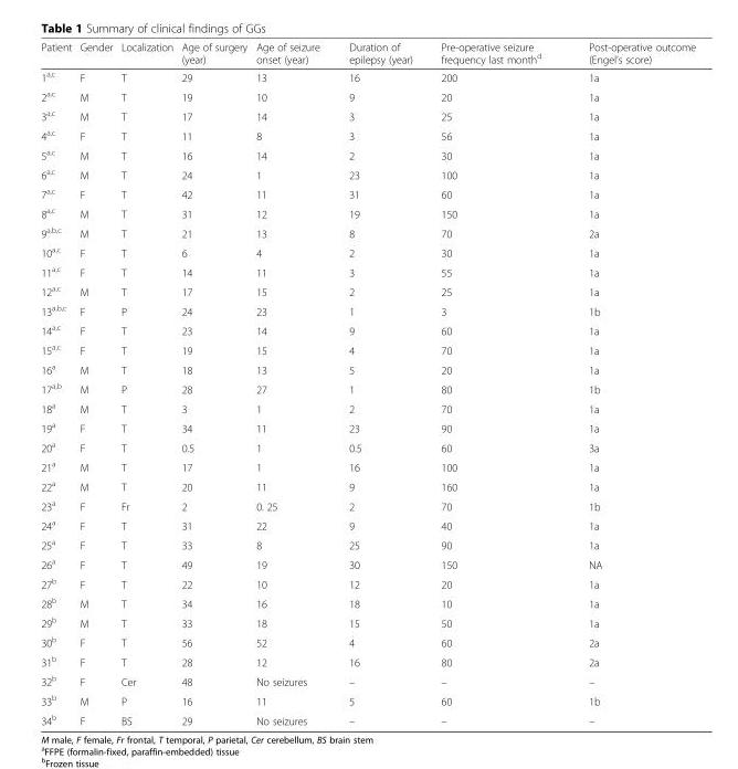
<table><thead><tr><td>Patient</td><td>Gender</td><td>Localization</td><td>Age of surgery (year)</td><td>Age of seizure onset (year)</td><td>Duration of epilepsy (year)</td><td>Pre-operative seizure frequency last month<sup>d</sup></td><td>Post-operative outcome (Engel’s score)</td></tr></thead><tbody><tr><td>1<sup>a,c</sup></td><td>F</td><td>T</td><td>29</td><td>13</td><td>16</td><td>200</td><td>1a</td></tr><tr><td>2<sup>a,c</sup></td><td>M</td><td>T</td><td>19</td><td>10</td><td>9</td><td>20</td><td>1a</td></tr><tr><td>3<sup>a,c</sup></td><td>M</td><td>T</td><td>17</td><td>14</td><td>3</td><td>25</td><td>1a</td></tr><tr><td>4<sup>a,c</sup></td><td>F</td><td>T</td><td>11</td><td>8</td><td>3</td><td>56</td><td>1a</td></tr><tr><td>5<sup>a,c</sup></td><td>M</td><td>T</td><td>16</td><td>14</td><td>2</td><td>30</td><td>1a</td></tr><tr><td>6<sup>a,c</sup></td><td>M</td><td>T</td><td>24</td><td>1</td><td>23</td><td>100</td><td>1a</td></tr><tr><td>7<sup>a,c</sup></td><td>F</td><td>T</td><td>42</td><td>11</td><td>31</td><td>60</td><td>1a</td></tr><tr><td>8<sup>a,c</sup></td><td>M</td><td>T</td><td>31</td><td>12</td><td>19</td><td>150</td><td>1a</td></tr><tr><td>9<sup>a,b,c</sup></td><td>M</td><td>T</td><td>21</td><td>13</td><td>8</td><td>70</td><td>2a</td></tr><tr><td>10<sup>a,c</sup></td><td>F</td><td>T</td><td>6</td><td>4</td><td>2</td><td>30</td><td>1a</td></tr><tr><td>11<sup>a,c</sup></td><td>F</td><td>T</td><td>14</td><td>11</td><td>3</td><td>55</td><td>1a</td></tr><tr><td>12<sup>a,c</sup></td><td>M</td><td>T</td><td>17</td><td>15</td><td>2</td><td>25</td><td>1a</td></tr><tr><td>13<sup>a,b,c</sup></td><td>F</td><td>P</td><td>24</td><td>23</td><td>1</td><td>3</td><td>1b</td></tr><tr><td>14<sup>a,c</sup></td><td>F</td><td>T</td><td>23</td><td>14</td><td>9</td><td>60</td><td>1a</td></tr><tr><td>15<sup>a,c</sup></td><td>F</td><td>T</td><td>19</td><td>15</td><td>4</td><td>70</td><td>1a</td></tr><tr><td>16<sup>a</sup></td><td>M</td><td>T</td><td>18</td><td>13</td><td>5</td><td>20</td><td>1a</td></tr><tr><td>17<sup>a,b</sup></td><td>M</td><td>P</td><td>28</td><td>27</td><td>1</td><td>80</td><td>1b</td></tr><tr><td>18<sup>a</sup></td><td>M</td><td>T</td><td>3</td><td>1</td><td>2</td><td>70</td><td>1a</td></tr><tr><td>19<sup>a</sup></td><td>F</td><td>T</td><td>34</td><td>11</td><td>23</td><td>90</td><td>1a</td></tr><tr><td>20<sup>a</sup></td><td>F</td><td>T</td><td>0.5</td><td>1</td><td>0.5</td><td>60</td><td>3a</td></tr><tr><td>21<sup>a</sup></td><td>M</td><td>T</td><td>17</td><td>1</td><td>16</td><td>100</td><td>1a</td></tr><tr><td>22<sup>a</sup></td><td>M</td><td>T</td><td>20</td><td>11</td><td>9</td><td>160</td><td>1a</td></tr><tr><td>23<sup>a</sup></td><td>F</td><td>Fr</td><td>2</td><td>0. 25</td><td>2</td><td>70</td><td>1b</td></tr><tr><td>24<sup>a</sup></td><td>F</td><td>T</td><td>31</td><td>22</td><td>9</td><td>40</td><td>1a</td></tr><tr><td>25<sup>a</sup></td><td>F</td><td>T</td><td>33</td><td>8</td><td>25</td><td>90</td><td>1a</td></tr><tr><td>26<sup>a</sup></td><td>F</td><td>T</td><td>49</td><td>19</td><td>30</td><td>150</td><td>NA</td></tr><tr><td>27<sup>b</sup></td><td>F</td><td>T</td><td>22</td><td>10</td><td>12</td><td>20</td><td>1a</td></tr><tr><td>28<sup>b</sup></td><td>M</td><td>T</td><td>34</td><td>16</td><td>18</td><td>10</td><td>1a</td></tr><tr><td>29<sup>b</sup></td><td>M</td><td>T</td><td>33</td><td>18</td><td>15</td><td>50</td><td>1a</td></tr><tr><td>30<sup>b</sup></td><td>F</td><td>T</td><td>56</td><td>52</td><td>4</td><td>60</td><td>2a</td></tr><tr><td>31<sup>b</sup></td><td>F</td><td>T</td><td>28</td><td>12</td><td>16</td><td>80</td><td>2a</td></tr><tr><td>32<sup>b</sup></td><td>F</td><td>Cer</td><td>48</td><td>No seizures</td><td>–</td><td>–</td><td>–</td></tr><tr><td>33<sup>b</sup></td><td>M</td><td>P</td><td>16</td><td>11</td><td>5</td><td>60</td><td>1b</td></tr><tr><td>34<sup>b</sup></td><td>F</td><td>BS</td><td>29</td><td>No seizures</td><td>–</td><td>–</td><td>–</td></tr></tbody></table>